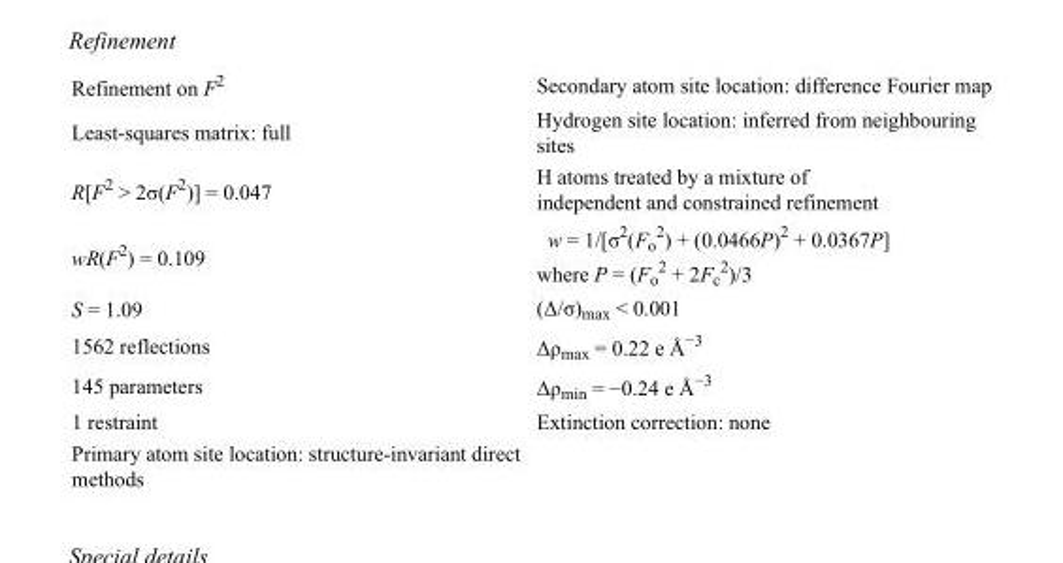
<table><tbody><tr><td>Refinement on F<sup>2</sup></td><td>Secondary atom site location: difference Fourier map</td></tr><tr><td>Least-squares matrix: full</td><td>Hydrogen site location: inferred from neighbouring sites</td></tr><tr><td>R[F<sup>2</sup> &gt; 2σ(F<sup>2</sup>)] = 0.047</td><td>H atoms treated by a mixture of independent and constrained refinement</td></tr><tr><td>wR(F<sup>2</sup>) = 0.109</td><td>w = 1/[σ<sup>2</sup>(F<sub>o</sub> <sup>2</sup>) + (0.0466P)<sup>2</sup> + 0.0367P] where P = (F<sub>o</sub> <sup>2</sup> + 2F<sub>c</sub> <sup>2</sup>)/3</td></tr><tr><td>S = 1.09</td><td>(Δ/σ)<sub>max</sub> &lt; 0.001</td></tr><tr><td>1562 reflections</td><td>Δρ<sub>max</sub> = 0.22 e Å<sup>−3</sup></td></tr><tr><td>145 parameters</td><td>Δρ<sub>min</sub> = −0.24 e Å<sup>−3</sup></td></tr><tr><td>1 restraint</td><td>Extinction correction: none</td></tr><tr><td>Primary atom site location: structure-invariant direct methods</td><td></td></tr></tbody></table>